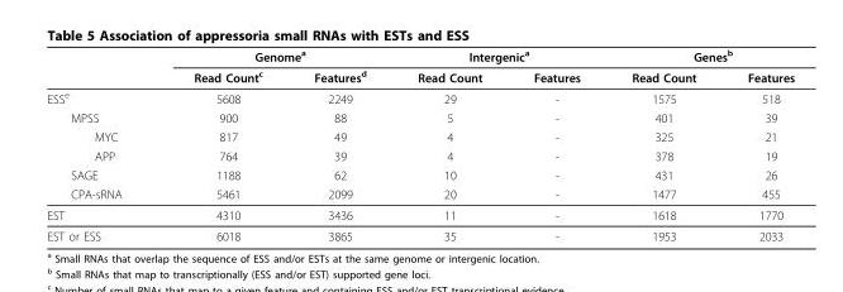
<table><thead><tr><td rowspan="2"></td><td colspan="2">Genome<sup>a</sup></td><td colspan="2">Intergenic<sup>a</sup></td><td colspan="2">Genes<sup>b</sup></td></tr><tr><td>Read Count<sup>c</sup></td><td>Features<sup>d</sup></td><td>Read Count</td><td>Features</td><td>Read Count</td><td>Features</td></tr></thead><tbody><tr><td>ESS<sup>e</sup></td><td>5608</td><td>2249</td><td>29</td><td>-</td><td>1575</td><td>518</td></tr><tr><td>MPSS</td><td>900</td><td>88</td><td>5</td><td>-</td><td>401</td><td>39</td></tr><tr><td>MYC</td><td>817</td><td>49</td><td>4</td><td>-</td><td>325</td><td>21</td></tr><tr><td>APP</td><td>764</td><td>39</td><td>4</td><td>-</td><td>378</td><td>19</td></tr><tr><td>SAGE</td><td>1188</td><td>62</td><td>10</td><td>-</td><td>431</td><td>26</td></tr><tr><td>CPA-sRNA</td><td>5461</td><td>2099</td><td>20</td><td>-</td><td>1477</td><td>455</td></tr><tr><td>EST</td><td>4310</td><td>3436</td><td>11</td><td>-</td><td>1618</td><td>1770</td></tr><tr><td>EST or ESS</td><td>6018</td><td>3865</td><td>35</td><td>-</td><td>1953</td><td>2033</td></tr></tbody></table>